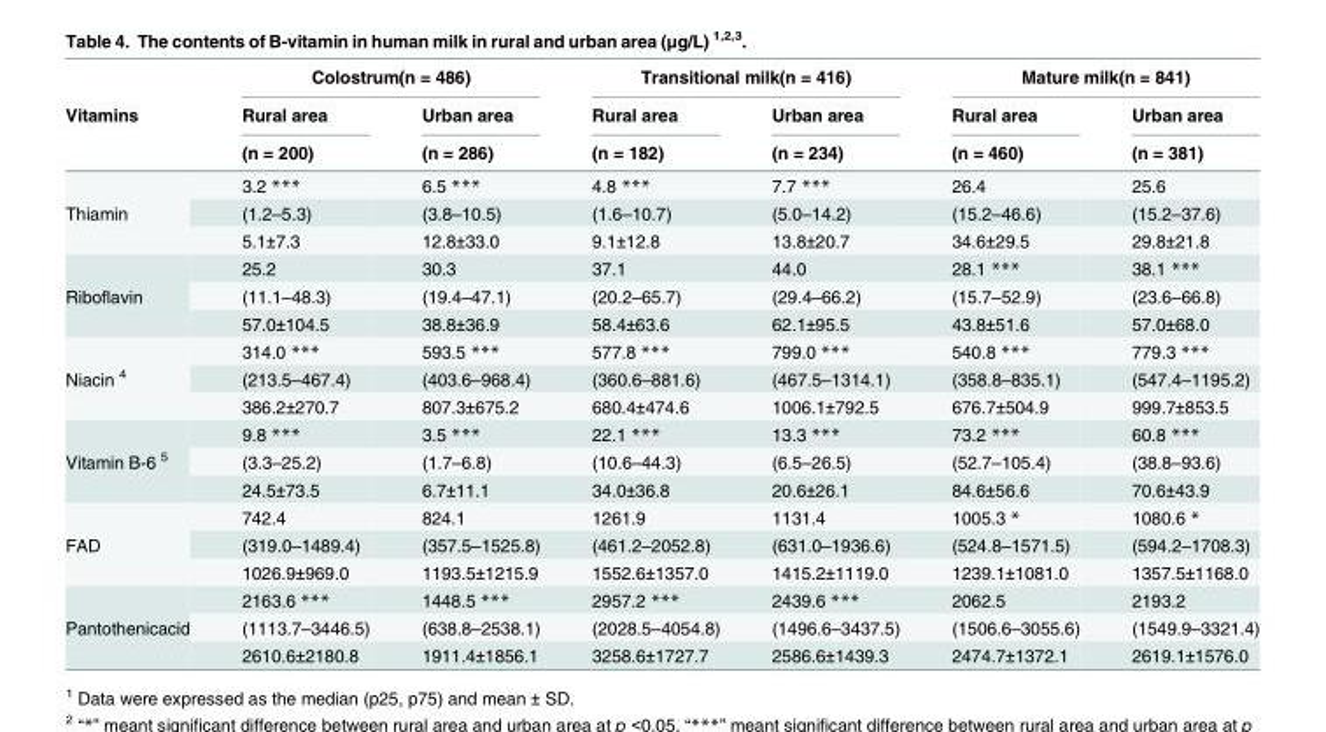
<table><thead><tr><td rowspan="3">Vitamins</td><td colspan="2">Colostrum(n = 486)</td><td colspan="2">Transitional milk(n = 416)</td><td colspan="2">Mature milk(n = 841)</td></tr><tr><td rowspan="2">Rural area (n = 200)</td><td rowspan="2">Urban area (n = 286)</td><td rowspan="2">Rural area (n = 182)</td><td rowspan="2">Urban area (n = 234)</td><td rowspan="2">Rural area (n = 460)</td><td rowspan="2">Urban area (n = 381)</td></tr><tr></tr></thead><tbody><tr><td rowspan="3">Thiamin</td><td>3.2 ***</td><td>6.5 ***</td><td>4.8 ***</td><td>7.7 ***</td><td>26.4</td><td>25.6</td></tr><tr><td>(1.2–5.3)</td><td>(3.8–10.5)</td><td>(1.6–10.7)</td><td>(5.0–14.2)</td><td>(15.2–46.6)</td><td>(15.2–37.6)</td></tr><tr><td>5.1±7.3</td><td>12.8±33.0</td><td>9.1±12.8</td><td>13.8±20.7</td><td>34.6±29.5</td><td>29.8±21.8</td></tr><tr><td rowspan="3">Riboflavin</td><td>25.2</td><td>30.3</td><td>37.1</td><td>44.0</td><td>28.1 ***</td><td>38.1 ***</td></tr><tr><td>(11.1–48.3)</td><td>(19.4–47.1)</td><td>(20.2–65.7)</td><td>(29.4–66.2)</td><td>(15.7–52.9)</td><td>(23.6–66.8)</td></tr><tr><td>57.0±104.5</td><td>38.8±36.9</td><td>58.4±63.6</td><td>62.1±95.5</td><td>43.8±51.6</td><td>57.0±68.0</td></tr><tr><td rowspan="3">Niacin <sup>4</sup></td><td>314.0 ***</td><td>593.5 ***</td><td>577.8 ***</td><td>799.0 ***</td><td>540.8 ***</td><td>779.3 ***</td></tr><tr><td>(213.5–467.4)</td><td>(403.6–968.4)</td><td>(360.6–881.6)</td><td>(467.5–1314.1)</td><td>(358.8–835.1)</td><td>(547.4–1195.2)</td></tr><tr><td>386.2±270.7</td><td>807.3±675.2</td><td>680.4±474.6</td><td>1006.1±792.5</td><td>676.7±504.9</td><td>999.7±853.5</td></tr><tr><td rowspan="3">Vitamin B-6 <sup>5</sup></td><td>9.8 ***</td><td>3.5 ***</td><td>22.1 ***</td><td>13.3 ***</td><td>73.2 ***</td><td>60.8 ***</td></tr><tr><td>(3.3–25.2)</td><td>(1.7–6.8)</td><td>(10.6–44.3)</td><td>(6.5–26.5)</td><td>(52.7–105.4)</td><td>(38.8–93.6)</td></tr><tr><td>24.5±73.5</td><td>6.7±11.1</td><td>34.0±36.8</td><td>20.6±26.1</td><td>84.6±56.6</td><td>70.6±43.9</td></tr><tr><td rowspan="3">FAD</td><td>742.4</td><td>824.1</td><td>1261.9</td><td>1131.4</td><td>1005.3 *</td><td>1080.6 *</td></tr><tr><td>(319.0–1489.4)</td><td>(357.5–1525.8)</td><td>(461.2–2052.8)</td><td>(631.0–1936.6)</td><td>(524.8–1571.5)</td><td>(594.2–1708.3)</td></tr><tr><td>1026.9±969.0</td><td>1193.5±1215.9</td><td>1552.6±1357.0</td><td>1415.2±1119.0</td><td>1239.1±1081.0</td><td>1357.5±1168.0</td></tr><tr><td rowspan="3">Pantothenicacid</td><td>2163.6 ***</td><td>1448.5 ***</td><td>2957.2 ***</td><td>2439.6 ***</td><td>2062.5</td><td>2193.2</td></tr><tr><td>(1113.7–3446.5)</td><td>(638.8–2538.1)</td><td>(2028.5–4054.8)</td><td>(1496.6–3437.5)</td><td>(1506.6–3055.6)</td><td>(1549.9–3321.4)</td></tr><tr><td>2610.6±2180.8</td><td>1911.4±1856.1</td><td>3258.6±1727.7</td><td>2586.6±1439.3</td><td>2474.7±1372.1</td><td>2619.1±1576.0</td></tr></tbody></table>